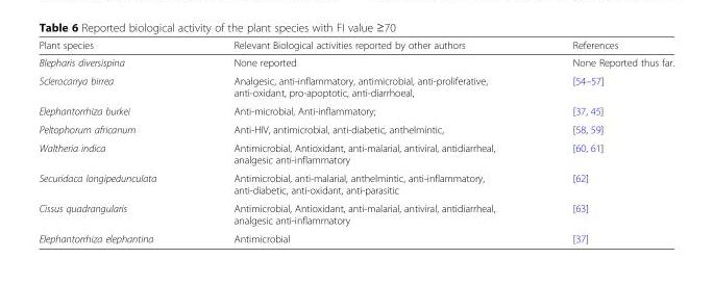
<table><thead><tr><td>Plant species</td><td>Relevant Biological activities reported by other authors</td><td>References</td></tr></thead><tbody><tr><td>Blepharis diversispina</td><td>None reported</td><td>None Reported thus far.</td></tr><tr><td>Sclerocarrya birrea</td><td>Analgesic, anti-inflammatory, antimicrobial, anti-proliferative, anti-oxidant, pro-apoptotic, anti-diarrhoeal,</td><td>[54–57]</td></tr><tr><td>Elephantorrhiza burkei</td><td>Anti-microbial, Anti-inflammatory;</td><td>[37, 45]</td></tr><tr><td>Peltophorum africanum</td><td>Anti-HIV, antimicrobial, anti-diabetic, anthelmintic,</td><td>[58, 59]</td></tr><tr><td>Waltheria indica</td><td>Antimicrobial, Antioxidant, anti-malarial, antiviral, antidiarrheal, analgesic anti-inflammatory</td><td>[60, 61]</td></tr><tr><td>Securidaca longipedunculata</td><td>Antimicrobial, anti-malarial, anthelmintic, anti-inflammatory, anti-diabetic, anti-oxidant, anti-parasitic</td><td>[62]</td></tr><tr><td>Cissus quadrangularis</td><td>Antimicrobial, Antioxidant, anti-malarial, antiviral, antidiarrheal, analgesic anti-inflammatory</td><td>[63]</td></tr><tr><td>Elephantorrhiza elephantina</td><td>Antimicrobial</td><td>[37]</td></tr></tbody></table>